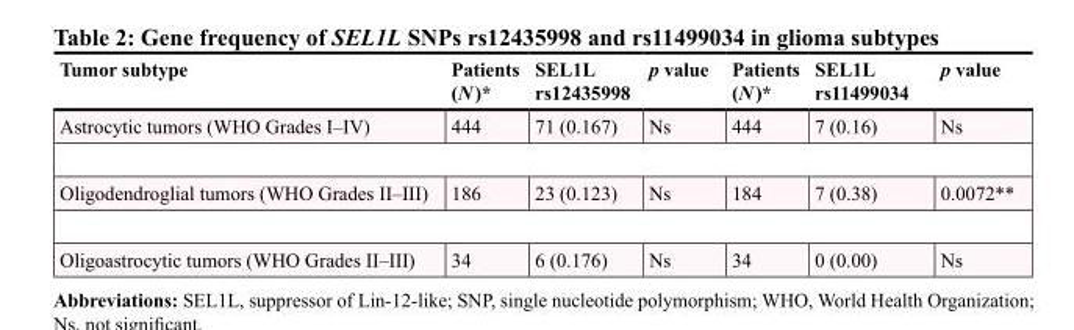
<table><thead><tr><td>Tumor subtype</td><td>Patients (N )*</td><td>SEL1L rs12435998</td><td>p value</td><td>Patients (N )*</td><td>SEL1L rs11499034</td><td>p value</td></tr></thead><tbody><tr><td>Astrocytic tumors (WHO Grades I–IV)</td><td>444</td><td>71 (0.167)</td><td>Ns</td><td>444</td><td>7 (0.16)</td><td>Ns</td></tr><tr><td>Oligodendroglial tumors (WHO Grades II–III)</td><td>186</td><td>23 (0.123)</td><td>Ns</td><td>184</td><td>7 (0.38)</td><td>0.0072**</td></tr><tr><td>Oligoastrocytic tumors (WHO Grades II–III)</td><td>34</td><td>6 (0.176)</td><td>Ns</td><td>34</td><td>0 (0.00)</td><td>Ns</td></tr></tbody></table>